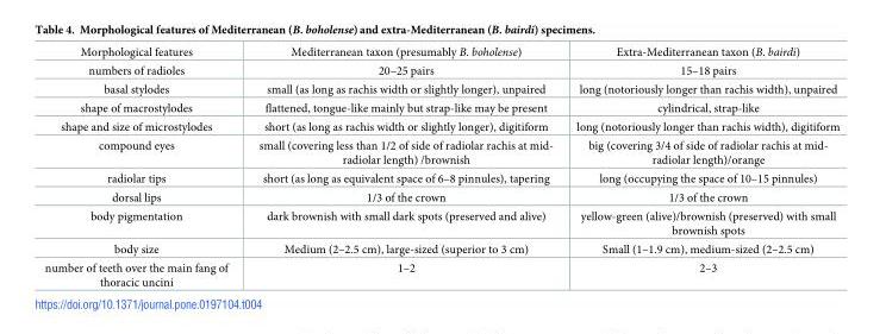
<table><tbody><tr><td>Morphological features</td><td>Mediterranean taxon (presumably B. boholense)</td><td>Extra-Mediterranean taxon (B. bairdi)</td></tr><tr><td>numbers of radioles</td><td>20–25 pairs</td><td>15–18 pairs</td></tr><tr><td>basal stylodes</td><td>small (as long as rachis width or slightly longer), unpaired</td><td>long (notoriously longer than rachis width), unpaired</td></tr><tr><td>shape of macrostylodes</td><td>flattened, tongue-like mainly but strap-like may be present</td><td>cylindrical, strap-like</td></tr><tr><td>shape and size of microstylodes</td><td>short (as long as rachis width or slightly longer), digitiform</td><td>long (notoriously longer than rachis width), digitiform</td></tr><tr><td>compound eyes</td><td>small (covering less than 1/2 of side of radiolar rachis at mid- radiolar length) /brownish</td><td>big (covering 3/4 of side of radiolar rachis at mid- radiolar length)/orange</td></tr><tr><td>radiolar tips</td><td>short (as long as equivalent space of 6–8 pinnules), tapering</td><td>long (occupying the space of 10–15 pinnules)</td></tr><tr><td>dorsal lips</td><td>1/3 of the crown</td><td>1/3 of the crown</td></tr><tr><td>body pigmentation</td><td>dark brownish with small dark spots (preserved and alive)</td><td>yellow-green (alive)/brownish (preserved) with small brownish spots</td></tr><tr><td>body size</td><td>Medium (2–2.5 cm), large-sized (superior to 3 cm)</td><td>Small (1–1.9 cm), medium-sized (2–2.5 cm)</td></tr><tr><td>number of teeth over the main fang of thoracic uncini</td><td>1–2</td><td>2–3</td></tr></tbody></table>